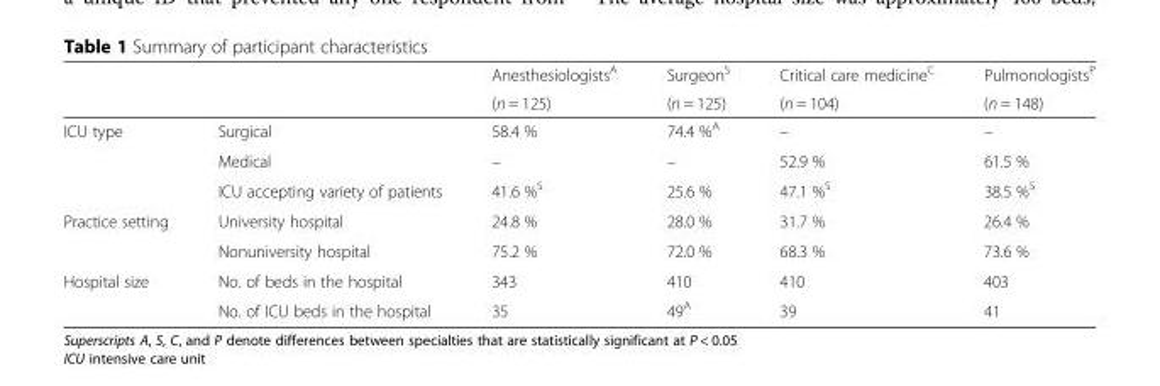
<table><thead><tr><td rowspan="2"></td><td rowspan="2"></td><td rowspan="2">Anesthesiologists<sup>A</sup> (n = 125)</td><td rowspan="2">Surgeon<sup>S</sup> (n = 125)</td><td rowspan="2">Critical care medicine<sup>C</sup> (n = 104)</td><td rowspan="2">Pulmonologists<sup>P</sup> (n = 148)</td></tr><tr></tr></thead><tbody><tr><td rowspan="3">ICU type</td><td>Surgical</td><td>58.4 %</td><td>74.4 %<sup>A</sup></td><td>–</td><td>–</td></tr><tr><td>Medical</td><td>–</td><td>–</td><td>52.9 %</td><td>61.5 %</td></tr><tr><td>ICU accepting variety of patients</td><td>41.6 %<sup>S</sup></td><td>25.6 %</td><td>47.1 %<sup>S</sup></td><td>38.5 %<sup>S</sup></td></tr><tr><td rowspan="2">Practice setting</td><td>University hospital</td><td>24.8 %</td><td>28.0 %</td><td>31.7 %</td><td>26.4 %</td></tr><tr><td>Nonuniversity hospital</td><td>75.2 %</td><td>72.0 %</td><td>68.3 %</td><td>73.6 %</td></tr><tr><td rowspan="2">Hospital size</td><td>No. of beds in the hospital</td><td>343</td><td>410</td><td>410</td><td>403</td></tr><tr><td>No. of ICU beds in the hospital</td><td>35</td><td>49<sup>A</sup></td><td>39</td><td>41</td></tr></tbody></table>